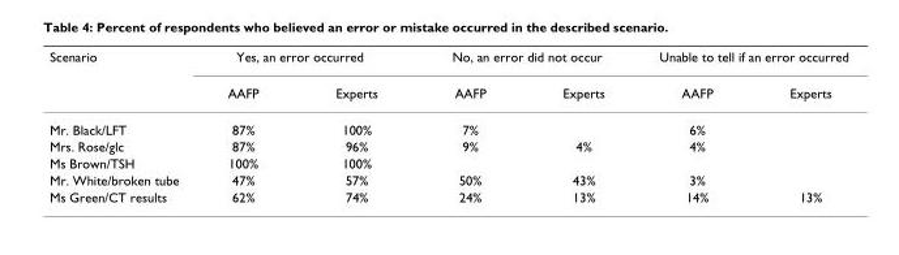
<table><thead><tr><td rowspan="2">Scenario</td><td colspan="2">Yes, an error occurred</td><td colspan="2">No, an error did not occur</td><td colspan="2">Unable to tell if an error occurred</td></tr><tr><td>AAFP</td><td>Experts</td><td>AAFP</td><td>Experts</td><td>AAFP</td><td>Experts</td></tr></thead><tbody><tr><td>Mr. Black/LFT</td><td>87%</td><td>100%</td><td>7%</td><td></td><td>6%</td><td></td></tr><tr><td>Mrs. Rose/glc</td><td>87%</td><td>96%</td><td>9%</td><td>4%</td><td>4%</td><td></td></tr><tr><td>Ms Brown/TSH</td><td>100%</td><td>100%</td><td></td><td></td><td></td><td></td></tr><tr><td>Mr. White/broken tube</td><td>47%</td><td>57%</td><td>50%</td><td>43%</td><td>3%</td><td></td></tr><tr><td>Ms Green/CT results</td><td>62%</td><td>74%</td><td>24%</td><td>13%</td><td>14%</td><td>13%</td></tr></tbody></table>